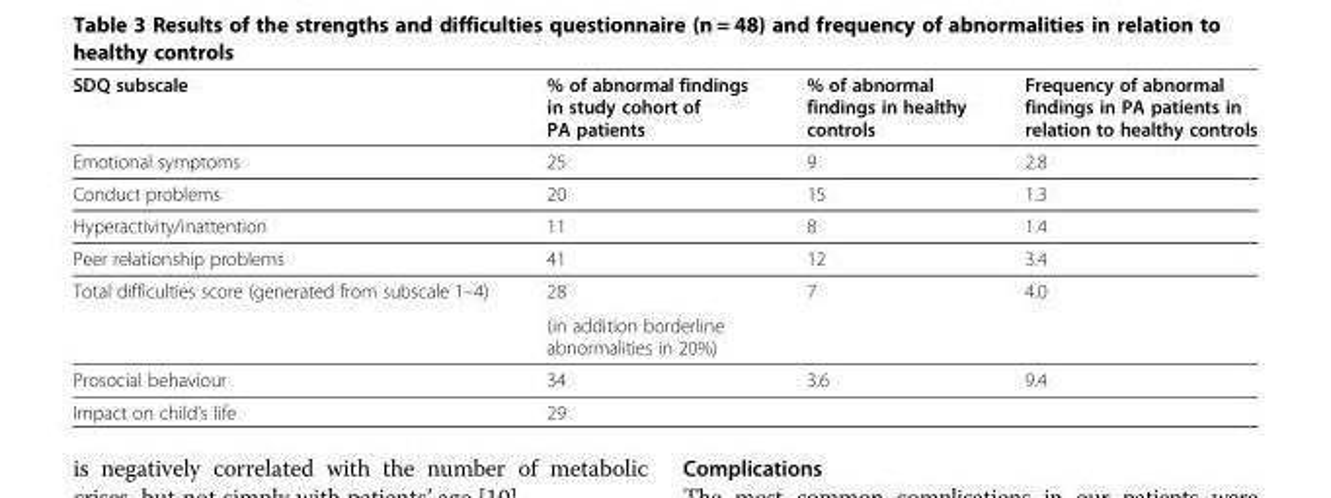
<table><thead><tr><td>SDQ subscale</td><td>% of abnormal findings in study cohort of PA patients</td><td>% of abnormal findings in healthy controls</td><td>Frequency of abnormal findings in PA patients in relation to healthy controls</td></tr></thead><tbody><tr><td>Emotional symptoms</td><td>25</td><td>9</td><td>2.8</td></tr><tr><td>Conduct problems</td><td>20</td><td>15</td><td>1.3</td></tr><tr><td>Hyperactivity/inattention</td><td>11</td><td>8</td><td>1.4</td></tr><tr><td>Peer relationship problems</td><td>41</td><td>12</td><td>3.4</td></tr><tr><td rowspan="2">Total difficulties score (generated from subscale 1–4)</td><td>28</td><td>7</td><td>4.0</td></tr><tr><td>(in addition borderline abnormalities in 20%)</td><td></td><td></td></tr><tr><td>Prosocial behaviour</td><td>34</td><td>3.6</td><td>9.4</td></tr><tr><td>Impact on child’s life</td><td>29</td><td></td><td></td></tr></tbody></table>